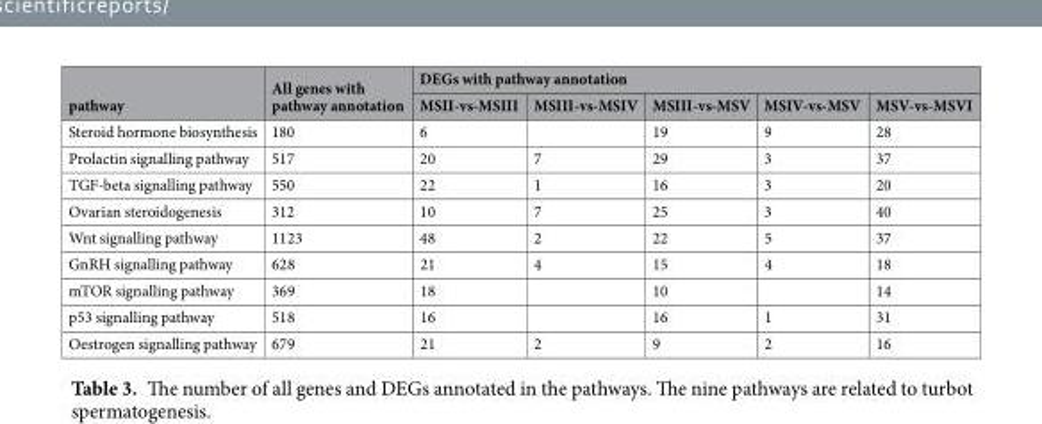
<table><thead><tr><td rowspan="2">pathway</td><td rowspan="2">All genes with pathway annotation</td><td colspan="5">DEGs with pathway annotation</td></tr><tr><td>MSII-vs-MSIII</td><td>MSIII-vs-MSIV</td><td>MSIII-vs-MSV</td><td>MSIV-vs-MSV</td><td>MSV-vs-MSVI</td></tr></thead><tbody><tr><td>Steroid hormone biosynthesis</td><td>180</td><td>6</td><td></td><td>19</td><td>9</td><td>28</td></tr><tr><td>Prolactin signalling pathway</td><td>517</td><td>20</td><td>7</td><td>29</td><td>3</td><td>37</td></tr><tr><td>TGF-beta signalling pathway</td><td>550</td><td>22</td><td>1</td><td>16</td><td>3</td><td>20</td></tr><tr><td>Ovarian steroidogenesis</td><td>312</td><td>10</td><td>7</td><td>25</td><td>3</td><td>40</td></tr><tr><td>Wnt signalling pathway</td><td>1123</td><td>48</td><td>2</td><td>22</td><td>5</td><td>37</td></tr><tr><td>GnRH signalling pathway</td><td>628</td><td>21</td><td>4</td><td>15</td><td>4</td><td>18</td></tr><tr><td>mTOR signalling pathway</td><td>369</td><td>18</td><td></td><td>10</td><td></td><td>14</td></tr><tr><td>p53 signalling pathway</td><td>518</td><td>16</td><td></td><td>16</td><td>1</td><td>31</td></tr><tr><td>Oestrogen signalling pathway</td><td>679</td><td>21</td><td>2</td><td>9</td><td>2</td><td>16</td></tr></tbody></table>